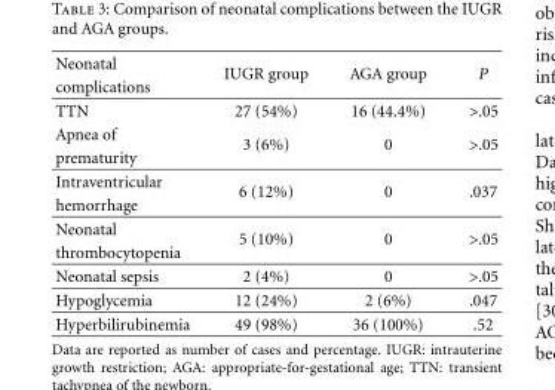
<table><thead><tr><td rowspan="2">Neonatal complications</td><td rowspan="2">IUGR group</td><td rowspan="2">AGA group</td><td rowspan="2">P</td></tr><tr></tr></thead><tbody><tr><td>TTN</td><td>27 (54%)</td><td>16 (44.4%)</td><td>&gt;.05</td></tr><tr><td>Apnea of</td><td rowspan="2">3 (6%)</td><td rowspan="2">0</td><td rowspan="2">&gt;.05</td></tr><tr><td>prematurity</td></tr><tr><td>Intraventricular</td><td rowspan="2">6 (12%)</td><td rowspan="2">0</td><td rowspan="2">.037</td></tr><tr><td>hemorrhage</td></tr><tr><td>Neonatal</td><td rowspan="2">5 (10%)</td><td rowspan="2">0</td><td rowspan="2">&gt;.05</td></tr><tr><td>thrombocytopenia</td></tr><tr><td>Neonatal sepsis</td><td>2 (4%)</td><td>0</td><td>&gt;.05</td></tr><tr><td>Hypoglycemia</td><td>12 (24%)</td><td>2 (6%)</td><td>.047</td></tr><tr><td>Hyperbilirubinemia</td><td>49 (98%)</td><td>36 (100%)</td><td>.52</td></tr></tbody></table>